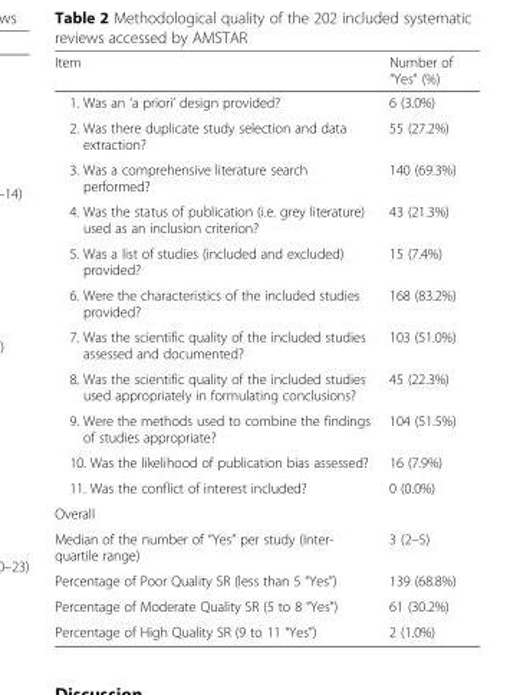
<table><thead><tr><td>Item</td><td>Number of “Yes” (%)</td></tr></thead><tbody><tr><td>1. Was an ‘a priori’ design provided?</td><td>6 (3.0%)</td></tr><tr><td>2. Was there duplicate study selection and data extraction?</td><td>55 (27.2%)</td></tr><tr><td>3. Was a comprehensive literature search performed?</td><td>140 (69.3%)</td></tr><tr><td>4. Was the status of publication (i.e. grey literature) used as an inclusion criterion?</td><td>43 (21.3%)</td></tr><tr><td>5. Was a list of studies (included and excluded) provided?</td><td>15 (7.4%)</td></tr><tr><td>6. Were the characteristics of the included studies provided?</td><td>168 (83.2%)</td></tr><tr><td>7. Was the scientific quality of the included studies assessed and documented?</td><td>103 (51.0%)</td></tr><tr><td>8. Was the scientific quality of the included studies used appropriately in formulating conclusions?</td><td>45 (22.3%)</td></tr><tr><td>9. Were the methods used to combine the findings of studies appropriate?</td><td>104 (51.5%)</td></tr><tr><td>10. Was the likelihood of publication bias assessed?</td><td>16 (7.9%)</td></tr><tr><td>11. Was the conflict of interest included?</td><td>0 (0.0%)</td></tr><tr><td colspan="2">Overall</td></tr><tr><td>Median of the number of “Yes” per study (Inter- quartile range)</td><td>3 (2–5)</td></tr><tr><td>Percentage of Poor Quality SR (less than 5 “Yes”)</td><td>139 (68.8%)</td></tr><tr><td>Percentage of Moderate Quality SR (5 to 8 “Yes”)</td><td>61 (30.2%)</td></tr><tr><td>Percentage of High Quality SR (9 to 11 “Yes”)</td><td>2 (1.0%)</td></tr></tbody></table>